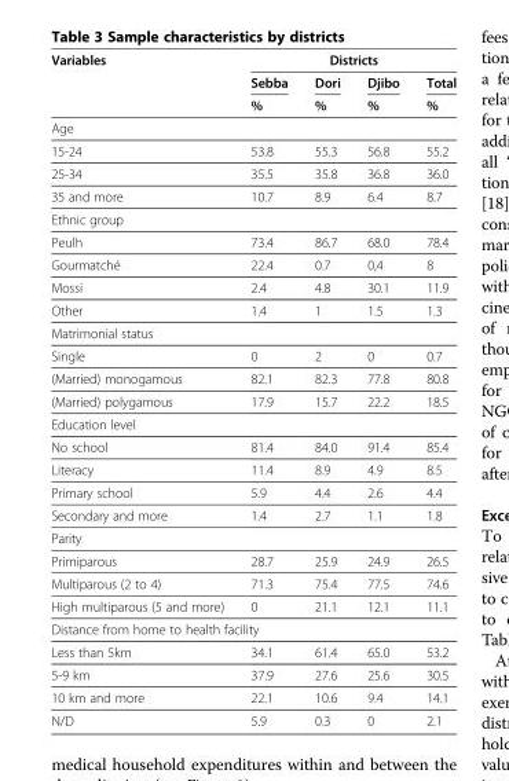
<table><thead><tr><td rowspan="3">Variables</td><td colspan="4">Districts</td></tr><tr><td rowspan="2">Sebba %</td><td rowspan="2">Dori %</td><td rowspan="2">Djibo %</td><td rowspan="2">Total %</td></tr><tr></tr></thead><tbody><tr><td colspan="5">Age</td></tr><tr><td>15-24</td><td>53.8</td><td>55.3</td><td>56.8</td><td>55.2</td></tr><tr><td>25-34</td><td>35.5</td><td>35.8</td><td>36.8</td><td>36.0</td></tr><tr><td>35 and more</td><td>10.7</td><td>8.9</td><td>6.4</td><td>8.7</td></tr><tr><td colspan="5">Ethnic group</td></tr><tr><td>Peulh</td><td>73.4</td><td>86.7</td><td>68.0</td><td>78.4</td></tr><tr><td>Gourmatché</td><td>22.4</td><td>0.7</td><td>0,4</td><td>8</td></tr><tr><td>Mossi</td><td>2.4</td><td>4.8</td><td>30.1</td><td>11.9</td></tr><tr><td>Other</td><td>1.4</td><td>1</td><td>1.5</td><td>1.3</td></tr><tr><td colspan="5">Matrimonial status</td></tr><tr><td>Single</td><td>0</td><td>2</td><td>0</td><td>0.7</td></tr><tr><td>(Married) monogamous</td><td>82.1</td><td>82.3</td><td>77.8</td><td>80.8</td></tr><tr><td>(Married) polygamous</td><td>17.9</td><td>15.7</td><td>22.2</td><td>18.5</td></tr><tr><td colspan="5">Education level</td></tr><tr><td>No school</td><td>81.4</td><td>84.0</td><td>91.4</td><td>85.4</td></tr><tr><td>Literacy</td><td>11.4</td><td>8.9</td><td>4.9</td><td>8.5</td></tr><tr><td>Primary school</td><td>5.9</td><td>4.4</td><td>2.6</td><td>4.4</td></tr><tr><td>Secondary and more</td><td>1.4</td><td>2.7</td><td>1.1</td><td>1.8</td></tr><tr><td colspan="5">Parity</td></tr><tr><td>Primiparous</td><td>28.7</td><td>25.9</td><td>24.9</td><td>26.5</td></tr><tr><td>Multiparous (2 to 4)</td><td>71.3</td><td>75.4</td><td>77.5</td><td>74.6</td></tr><tr><td>High multiparous (5 and more)</td><td>0</td><td>21.1</td><td>12.1</td><td>11.1</td></tr><tr><td colspan="5">Distance from home to health facility</td></tr><tr><td>Less than 5km</td><td>34.1</td><td>61.4</td><td>65.0</td><td>53.2</td></tr><tr><td>5-9 km</td><td>37.9</td><td>27.6</td><td>25.6</td><td>30.5</td></tr><tr><td>10 km and more</td><td>22.1</td><td>10.6</td><td>9.4</td><td>14.1</td></tr><tr><td>N/D</td><td>5.9</td><td>0.3</td><td>0</td><td>2.1</td></tr></tbody></table>